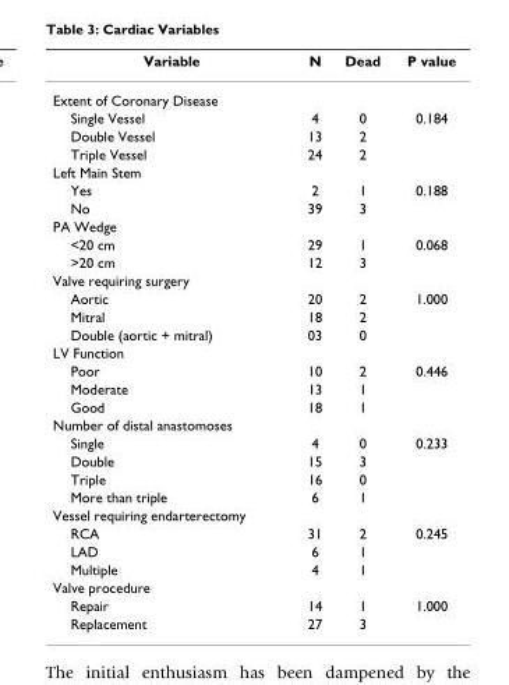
<table><thead><tr><td>Variable</td><td>N</td><td>Dead</td><td>P value</td></tr></thead><tbody><tr><td colspan="4">Extent of Coronary Disease</td></tr><tr><td>Single Vessel</td><td>4</td><td>0</td><td>0.184</td></tr><tr><td>Double Vessel</td><td>13</td><td>2</td><td></td></tr><tr><td>Triple Vessel</td><td>24</td><td>2</td><td></td></tr><tr><td colspan="4">Left Main Stem</td></tr><tr><td>Yes</td><td>2</td><td>1</td><td>0.188</td></tr><tr><td>No</td><td>39</td><td>3</td><td></td></tr><tr><td colspan="4">PA Wedge</td></tr><tr><td>&lt;20 cm</td><td>29</td><td>1</td><td>0.068</td></tr><tr><td>&gt;20 cm</td><td>12</td><td>3</td><td></td></tr><tr><td colspan="4">Valve requiring surgery</td></tr><tr><td>Aortic</td><td>20</td><td>2</td><td>1.000</td></tr><tr><td>Mitral</td><td>18</td><td>2</td><td></td></tr><tr><td>Double (aortic + mitral)</td><td>03</td><td>0</td><td></td></tr><tr><td colspan="4">LV Function</td></tr><tr><td>Poor</td><td>10</td><td>2</td><td>0.446</td></tr><tr><td>Moderate</td><td>13</td><td>1</td><td></td></tr><tr><td>Good</td><td>18</td><td>1</td><td></td></tr><tr><td colspan="4">Number of distal anastomoses</td></tr><tr><td>Single</td><td>4</td><td>0</td><td>0.233</td></tr><tr><td>Double</td><td>15</td><td>3</td><td></td></tr><tr><td>Triple</td><td>16</td><td>0</td><td></td></tr><tr><td>More than triple</td><td>6</td><td>1</td><td></td></tr><tr><td colspan="4">Vessel requiring endarterectomy</td></tr><tr><td>RCA</td><td>31</td><td>2</td><td>0.245</td></tr><tr><td>LAD</td><td>6</td><td>1</td><td></td></tr><tr><td>Multiple</td><td>4</td><td>1</td><td></td></tr><tr><td colspan="4">Valve procedure</td></tr><tr><td>Repair</td><td>14</td><td>1</td><td>1.000</td></tr><tr><td>Replacement</td><td>27</td><td>3</td><td></td></tr></tbody></table>